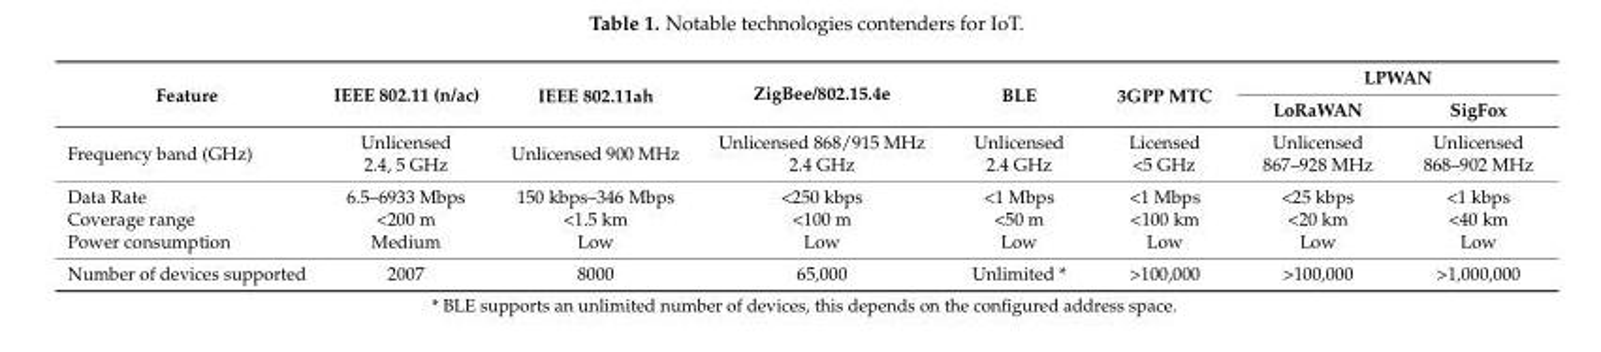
<table><thead><tr><td rowspan="2">Feature</td><td rowspan="2">IEEE 802.11 (n/ac)</td><td rowspan="2">IEEE 802.11ah</td><td rowspan="2">ZigBee/802.15.4e</td><td rowspan="2">BLE</td><td rowspan="2">3GPP MTC</td><td colspan="2">LPWAN</td></tr><tr><td>LoRaWAN</td><td>SigFox</td></tr></thead><tbody><tr><td>Frequency band (GHz)</td><td>Unlicensed 2.4, 5 GHz</td><td>Unlicensed 900 MHz</td><td>Unlicensed 868/915 MHz 2.4 GHz</td><td>Unlicensed 2.4 GHz</td><td>Licensed &lt;5 GHz</td><td>Unlicensed 867–928 MHz</td><td>Unlicensed 868–902 MHz</td></tr><tr><td>Data Rate</td><td>6.5–6933 Mbps</td><td>150 kbps–346 Mbps</td><td>&lt;250 kbps</td><td>&lt;1 Mbps</td><td>&lt;1 Mbps</td><td>&lt;25 kbps</td><td>&lt;1 kbps</td></tr><tr><td>Coverage range</td><td>&lt;200 m</td><td>&lt;1.5 km</td><td>&lt;100 m</td><td>&lt;50 m</td><td>&lt;100 km</td><td>&lt;20 km</td><td>&lt;40 km</td></tr><tr><td>Power consumption</td><td>Medium</td><td>Low</td><td>Low</td><td>Low</td><td>Low</td><td>Low</td><td>Low</td></tr><tr><td>Number of devices supported</td><td>2007</td><td>8000</td><td>65,000</td><td>Unlimited *</td><td>&gt;100,000</td><td>&gt;100,000</td><td>&gt;1,000,000</td></tr></tbody></table>